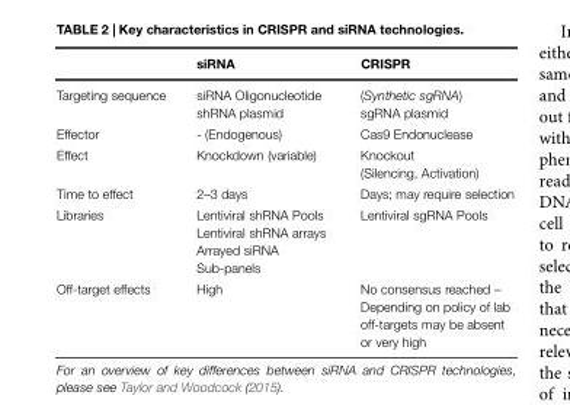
<table><thead><tr><td></td><td>siRNA</td><td>CRISPR</td></tr></thead><tbody><tr><td>Targeting sequence</td><td>siRNA Oligonucleotide shRNA plasmid</td><td>(Synthetic sgRNA) sgRNA plasmid</td></tr><tr><td>Effector</td><td>- (Endogenous)</td><td>Cas9 Endonuclease</td></tr><tr><td>Effect</td><td>Knockdown (variable)</td><td>Knockout (Silencing, Activation)</td></tr><tr><td>Time to effect</td><td>2–3 days</td><td>Days; may require selection</td></tr><tr><td>Libraries</td><td>Lentiviral shRNA Pools Lentiviral shRNA arrays Arrayed siRNA Sub-panels</td><td>Lentiviral sgRNA Pools</td></tr><tr><td>Off-target effects</td><td>High</td><td>No consensus reached – Depending on policy of lab off-targets may be absent or very high</td></tr></tbody></table>